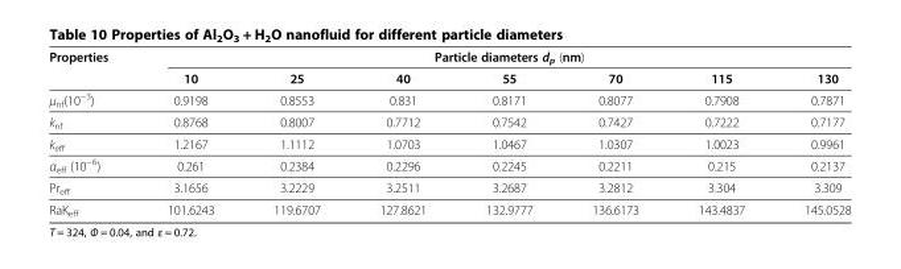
<table><thead><tr><td rowspan="2">Properties</td><td colspan="7">Particle diameters d<sub>p</sub> (nm)</td></tr><tr><td>10</td><td>25</td><td>40</td><td>55</td><td>70</td><td>115</td><td>130</td></tr></thead><tbody><tr><td>μ<sub>nf</sub>(10<sup>−3</sup>)</td><td>0.9198</td><td>0.8553</td><td>0.831</td><td>0.8171</td><td>0.8077</td><td>0.7908</td><td>0.7871</td></tr><tr><td>k<sub>nf</sub></td><td>0.8768</td><td>0.8007</td><td>0.7712</td><td>0.7542</td><td>0.7427</td><td>0.7222</td><td>0.7177</td></tr><tr><td>k<sub>eff</sub></td><td>1.2167</td><td>1.1112</td><td>1.0703</td><td>1.0467</td><td>1.0307</td><td>1.0023</td><td>0.9961</td></tr><tr><td>α<sub>eff</sub> (10<sup>−6</sup>)</td><td>0.261</td><td>0.2384</td><td>0.2296</td><td>0.2245</td><td>0.2211</td><td>0.215</td><td>0.2137</td></tr><tr><td>Pr<sub>eff</sub></td><td>3.1656</td><td>3.2229</td><td>3.2511</td><td>3.2687</td><td>3.2812</td><td>3.304</td><td>3.309</td></tr><tr><td>RaK<sub>eff</sub></td><td>101.6243</td><td>119.6707</td><td>127.8621</td><td>132.9777</td><td>136.6173</td><td>143.4837</td><td>145.0528</td></tr></tbody></table>